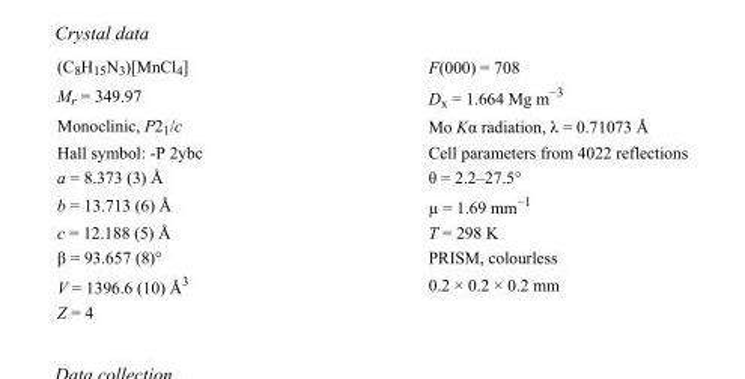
<table><tbody><tr><td>(C<sub>8</sub>H<sub>15</sub>N<sub>3</sub>)[MnCl<sub>4</sub>]</td><td>F(000) = 708</td></tr><tr><td>M<sub>r</sub> = 349.97</td><td>D<sub>x</sub> = 1.664 Mg m<sup>−3</sup></td></tr><tr><td>Monoclinic, P2<sub>1</sub>/c</td><td>Mo Kα radiation, λ = 0.71073 Å</td></tr><tr><td>Hall symbol: -P 2ybc</td><td>Cell parameters from 4022 reflections</td></tr><tr><td>a = 8.373 (3) Å</td><td>θ = 2.2–27.5°</td></tr><tr><td>b = 13.713 (6) Å</td><td>µ = 1.69 mm<sup>−1</sup></td></tr><tr><td>c = 12.188 (5) Å</td><td>T = 298 K</td></tr><tr><td>β = 93.657 (8)°</td><td>PRISM, colourless</td></tr><tr><td>V = 1396.6 (10) Å<sup>3</sup></td><td>0.2 × 0.2 × 0.2 mm</td></tr><tr><td>Z = 4</td><td></td></tr></tbody></table>